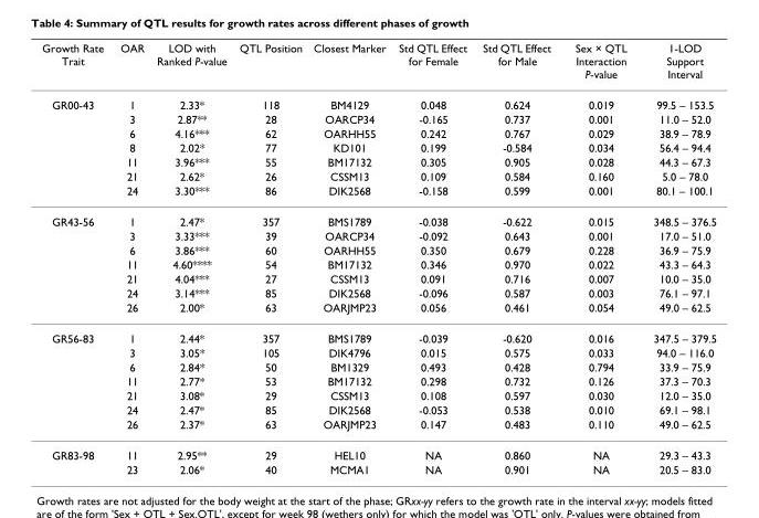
<table><thead><tr><td>Growth Rate Trait</td><td>OAR</td><td>LOD with Ranked P-value</td><td>QTL Position</td><td>Closest Marker</td><td>Std QTL Effect for Female</td><td>Std QTL Effect for Male</td><td>Sex × QTL Interaction P-value</td><td>1-LOD Support Interval</td></tr></thead><tbody><tr><td rowspan="7">GR00-43</td><td>1</td><td>2.33*</td><td>118</td><td>BM4129</td><td>0.048</td><td>0.624</td><td>0.019</td><td>99.5 – 153.5</td></tr><tr><td>3</td><td>2.87**</td><td>28</td><td>OARCP34</td><td>-0.165</td><td>0.737</td><td>0.001</td><td>11.0 – 52.0</td></tr><tr><td>6</td><td>4.16***</td><td>62</td><td>OARHH55</td><td>0.242</td><td>0.767</td><td>0.029</td><td>38.9 – 78.9</td></tr><tr><td>8</td><td>2.02*</td><td>77</td><td>KD101</td><td>0.199</td><td>-0.584</td><td>0.034</td><td>56.4 – 94.4</td></tr><tr><td>11</td><td>3.96***</td><td>55</td><td>BM17132</td><td>0.305</td><td>0.905</td><td>0.028</td><td>44.3 – 67.3</td></tr><tr><td>21</td><td>2.62*</td><td>26</td><td>CSSM13</td><td>0.109</td><td>0.584</td><td>0.160</td><td>5.0 – 78.0</td></tr><tr><td>24</td><td>3.30***</td><td>86</td><td>DIK2568</td><td>-0.158</td><td>0.599</td><td>0.001</td><td>80.1 – 100.1</td></tr><tr><td rowspan="7">GR43-56</td><td>1</td><td>2.47*</td><td>357</td><td>BMS1789</td><td>-0.038</td><td>-0.622</td><td>0.015</td><td>348.5 – 376.5</td></tr><tr><td>3</td><td>3.33***</td><td>39</td><td>OARCP34</td><td>-0.092</td><td>0.643</td><td>0.001</td><td>17.0 – 51.0</td></tr><tr><td>6</td><td>3.86***</td><td>60</td><td>OARHH55</td><td>0.350</td><td>0.679</td><td>0.228</td><td>36.9 – 75.9</td></tr><tr><td>11</td><td>4.60****</td><td>54</td><td>BM17132</td><td>0.346</td><td>0.970</td><td>0.022</td><td>43.3 – 64.3</td></tr><tr><td>21</td><td>4.04***</td><td>27</td><td>CSSM13</td><td>0.091</td><td>0.716</td><td>0.007</td><td>10.0 – 35.0</td></tr><tr><td>24</td><td>3.14***</td><td>85</td><td>DIK2568</td><td>-0.096</td><td>0.587</td><td>0.003</td><td>76.1 – 97.1</td></tr><tr><td>26</td><td>2.00*</td><td>63</td><td>OARJMP23</td><td>0.056</td><td>0.461</td><td>0.054</td><td>49.0 – 62.5</td></tr><tr><td rowspan="7">GR56-83</td><td>1</td><td>2.44*</td><td>357</td><td>BMS1789</td><td>-0.039</td><td>-0.620</td><td>0.016</td><td>347.5 – 379.5</td></tr><tr><td>3</td><td>3.05*</td><td>105</td><td>DIK4796</td><td>0.015</td><td>0.575</td><td>0.033</td><td>94.0 – 116.0</td></tr><tr><td>6</td><td>2.84*</td><td>50</td><td>BM1329</td><td>0.493</td><td>0.428</td><td>0.794</td><td>33.9 – 75.9</td></tr><tr><td>11</td><td>2.77*</td><td>53</td><td>BM17132</td><td>0.298</td><td>0.732</td><td>0.126</td><td>37.3 – 70.3</td></tr><tr><td>21</td><td>3.08*</td><td>29</td><td>CSSM13</td><td>0.108</td><td>0.597</td><td>0.030</td><td>12.0 – 35.0</td></tr><tr><td>24</td><td>2.47*</td><td>85</td><td>DIK2568</td><td>-0.053</td><td>0.538</td><td>0.010</td><td>69.1 – 98.1</td></tr><tr><td>26</td><td>2.37*</td><td>63</td><td>OARJMP23</td><td>0.147</td><td>0.483</td><td>0.110</td><td>49.0 – 62.5</td></tr><tr><td rowspan="2">GR83-98</td><td>11</td><td>2.95**</td><td>29</td><td>HEL10</td><td>NA</td><td>0.860</td><td>NA</td><td>29.3 – 43.3</td></tr><tr><td>23</td><td>2.06*</td><td>40</td><td>MCMA1</td><td>NA</td><td>0.901</td><td>NA</td><td>20.5 – 83.0</td></tr></tbody></table>